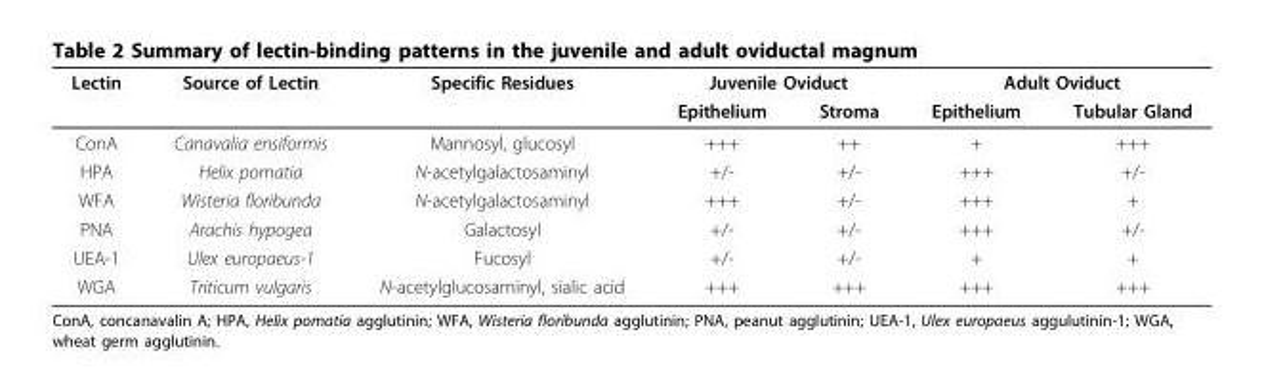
<table><thead><tr><td rowspan="2">Lectin</td><td rowspan="2">Source of Lectin</td><td rowspan="2">Specific Residues</td><td colspan="2">Juvenile Oviduct</td><td colspan="2">Adult Oviduct</td></tr><tr><td>Epithelium</td><td>Stroma</td><td>Epithelium</td><td>Tubular Gland</td></tr></thead><tbody><tr><td>ConA</td><td>Canavalia ensiformis</td><td>Mannosyl, glucosyl</td><td>+++</td><td>++</td><td>+</td><td>+++</td></tr><tr><td>HPA</td><td>Helix pomatia</td><td>N-acetylgalactosaminyl</td><td>+/-</td><td>+/-</td><td>+++</td><td>+/-</td></tr><tr><td>WFA</td><td>Wisteria floribunda</td><td>N-acetylgalactosaminyl</td><td>+++</td><td>+/-</td><td>+++</td><td>+</td></tr><tr><td>PNA</td><td>Arachis hypogea</td><td>Galactosyl</td><td>+/-</td><td>+/-</td><td>+++</td><td>+/-</td></tr><tr><td>UEA-1</td><td>Ulex europaeus-1</td><td>Fucosyl</td><td>+/-</td><td>+/-</td><td>+</td><td>+</td></tr><tr><td>WGA</td><td>Triticum vulgaris</td><td>N-acetylglucosaminyl, sialic acid</td><td>+++</td><td>+++</td><td>+++</td><td>+++</td></tr></tbody></table>